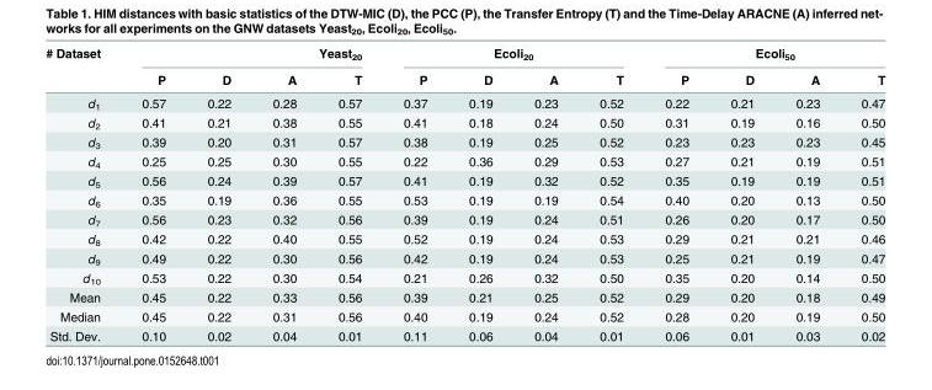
<table><thead><tr><td rowspan="2"># Dataset</td><td colspan="4">Yeast<sub>20</sub></td><td colspan="4">Ecoli<sub>20</sub></td><td colspan="4">Ecoli<sub>50</sub></td></tr><tr><td>P</td><td>D</td><td>A</td><td>T</td><td>P</td><td>D</td><td>A</td><td>T</td><td>P</td><td>D</td><td>A</td><td>T</td></tr></thead><tbody><tr><td>d<sub>1</sub></td><td>0.57</td><td>0.22</td><td>0.28</td><td>0.57</td><td>0.37</td><td>0.19</td><td>0.23</td><td>0.52</td><td>0.22</td><td>0.21</td><td>0.23</td><td>0.47</td></tr><tr><td>d<sub>2</sub></td><td>0.41</td><td>0.21</td><td>0.38</td><td>0.55</td><td>0.41</td><td>0.18</td><td>0.24</td><td>0.50</td><td>0.31</td><td>0.19</td><td>0.16</td><td>0.50</td></tr><tr><td>d<sub>3</sub></td><td>0.39</td><td>0.20</td><td>0.31</td><td>0.57</td><td>0.38</td><td>0.19</td><td>0.25</td><td>0.52</td><td>0.23</td><td>0.23</td><td>0.23</td><td>0.45</td></tr><tr><td>d<sub>4</sub></td><td>0.25</td><td>0.25</td><td>0.30</td><td>0.55</td><td>0.22</td><td>0.36</td><td>0.29</td><td>0.53</td><td>0.27</td><td>0.21</td><td>0.19</td><td>0.51</td></tr><tr><td>d<sub>5</sub></td><td>0.56</td><td>0.24</td><td>0.39</td><td>0.57</td><td>0.41</td><td>0.19</td><td>0.32</td><td>0.52</td><td>0.35</td><td>0.19</td><td>0.19</td><td>0.51</td></tr><tr><td>d<sub>6</sub></td><td>0.35</td><td>0.19</td><td>0.36</td><td>0.55</td><td>0.53</td><td>0.19</td><td>0.19</td><td>0.54</td><td>0.40</td><td>0.20</td><td>0.13</td><td>0.50</td></tr><tr><td>d<sub>7</sub></td><td>0.56</td><td>0.23</td><td>0.32</td><td>0.56</td><td>0.39</td><td>0.19</td><td>0.24</td><td>0.51</td><td>0.26</td><td>0.20</td><td>0.17</td><td>0.50</td></tr><tr><td>d<sub>8</sub></td><td>0.42</td><td>0.22</td><td>0.40</td><td>0.55</td><td>0.52</td><td>0.19</td><td>0.24</td><td>0.53</td><td>0.29</td><td>0.21</td><td>0.21</td><td>0.46</td></tr><tr><td>d<sub>9</sub></td><td>0.49</td><td>0.22</td><td>0.30</td><td>0.56</td><td>0.42</td><td>0.19</td><td>0.24</td><td>0.53</td><td>0.25</td><td>0.21</td><td>0.19</td><td>0.47</td></tr><tr><td>d<sub>10</sub></td><td>0.53</td><td>0.22</td><td>0.30</td><td>0.54</td><td>0.21</td><td>0.26</td><td>0.32</td><td>0.50</td><td>0.35</td><td>0.20</td><td>0.14</td><td>0.50</td></tr><tr><td>Mean</td><td>0.45</td><td>0.22</td><td>0.33</td><td>0.56</td><td>0.39</td><td>0.21</td><td>0.25</td><td>0.52</td><td>0.29</td><td>0.20</td><td>0.18</td><td>0.49</td></tr><tr><td>Median</td><td>0.45</td><td>0.22</td><td>0.31</td><td>0.56</td><td>0.40</td><td>0.19</td><td>0.24</td><td>0.52</td><td>0.28</td><td>0.20</td><td>0.19</td><td>0.50</td></tr><tr><td>Std. Dev.</td><td>0.10</td><td>0.02</td><td>0.04</td><td>0.01</td><td>0.11</td><td>0.06</td><td>0.04</td><td>0.01</td><td>0.06</td><td>0.01</td><td>0.03</td><td>0.02</td></tr></tbody></table>